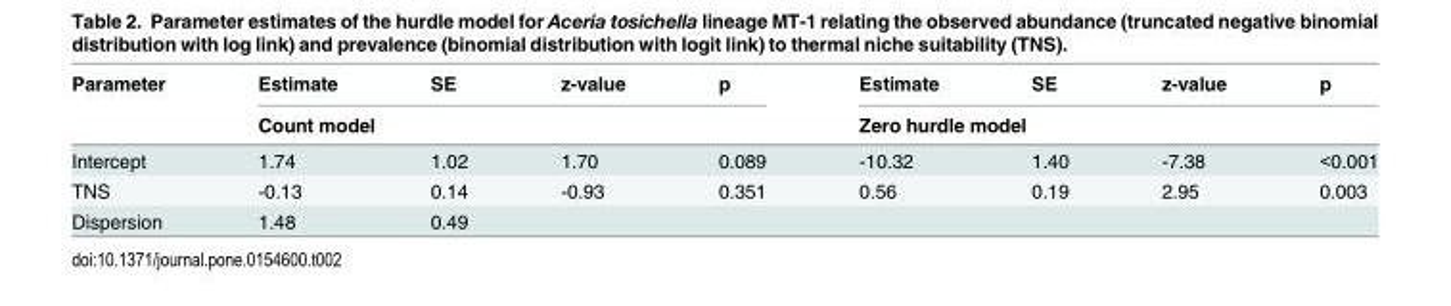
<table><thead><tr><td rowspan="2">Parameter</td><td>Estimate</td><td>SE</td><td>z-value</td><td>p</td><td>Estimate</td><td>SE</td><td>z-value</td><td>p</td></tr><tr><td colspan="4">Count model</td><td colspan="4">Zero hurdle model</td></tr></thead><tbody><tr><td>Intercept</td><td>1.74</td><td>1.02</td><td>1.70</td><td>0.089</td><td>-10.32</td><td>1.40</td><td>-7.38</td><td>&lt;0.001</td></tr><tr><td>TNS</td><td>-0.13</td><td>0.14</td><td>-0.93</td><td>0.351</td><td>0.56</td><td>0.19</td><td>2.95</td><td>0.003</td></tr><tr><td>Dispersion</td><td>1.48</td><td>0.49</td><td></td><td></td><td></td><td></td><td></td><td></td></tr></tbody></table>